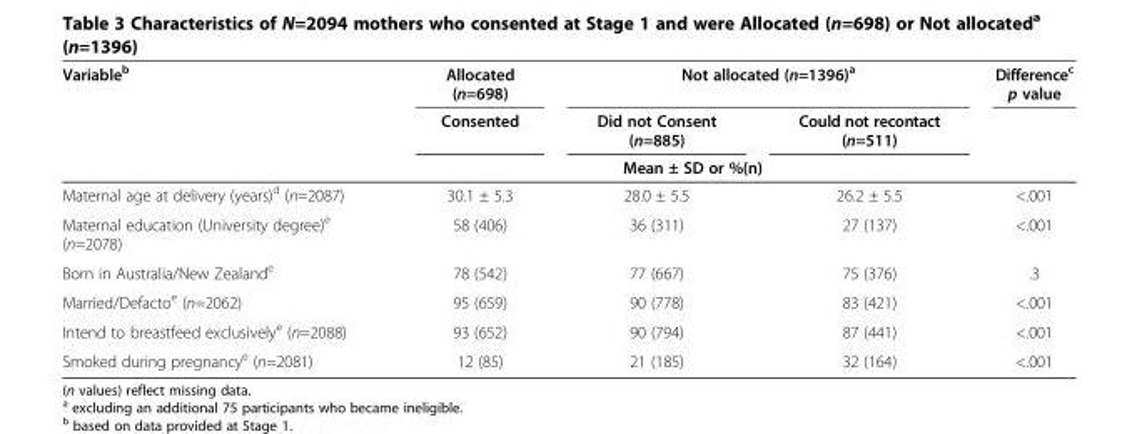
<table><thead><tr><td rowspan="3">Variable<sup>b</sup></td><td rowspan="2">Allocated (n=698) Consented</td><td colspan="2">Not allocated (n=1396)<sup>a</sup></td><td rowspan="3">Difference<sup>c</sup> p value</td></tr><tr><td>Did not Consent (n=885)</td><td>Could not recontact (n=511)</td></tr><tr><td colspan="3">Mean ± SD or %(n)</td></tr></thead><tbody><tr><td>Maternal age at delivery (years)<sup>d</sup> (n=2087)</td><td>30.1 ± 5.3</td><td>28.0 ± 5.5</td><td>26.2 ± 5.5</td><td>&lt;.001</td></tr><tr><td>Maternal education (University degree)<sup>e</sup> (n=2078)</td><td>58 (406)</td><td>36 (311)</td><td>27 (137)</td><td>&lt;.001</td></tr><tr><td>Born in Australia/New Zealand<sup>e</sup></td><td>78 (542)</td><td>77 (667)</td><td>75 (376)</td><td>.3</td></tr><tr><td>Married/Defacto<sup>e</sup> (n=2062)</td><td>95 (659)</td><td>90 (778)</td><td>83 (421)</td><td>&lt;.001</td></tr><tr><td>Intend to breastfeed exclusively<sup>e</sup> (n=2088)</td><td>93 (652)</td><td>90 (794)</td><td>87 (441)</td><td>&lt;.001</td></tr><tr><td>Smoked during pregnancy<sup>e</sup> (n=2081)</td><td>12 (85)</td><td>21 (185)</td><td>32 (164)</td><td>&lt;.001</td></tr></tbody></table>